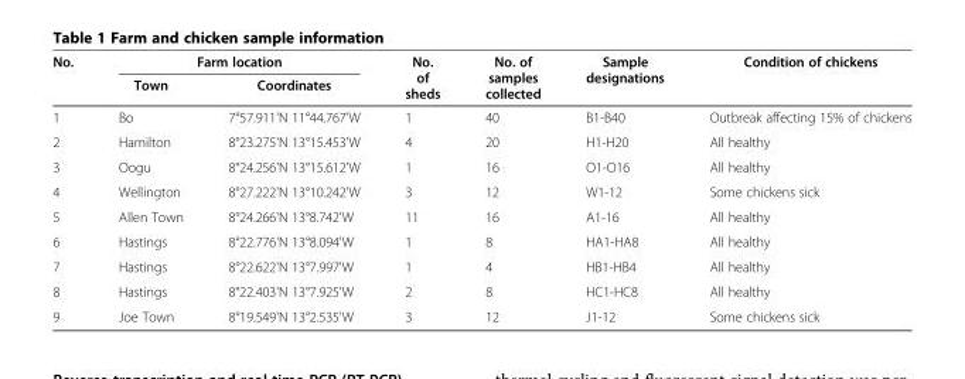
<table><thead><tr><td rowspan="2">No.</td><td colspan="2">Farm location</td><td rowspan="2">No. of sheds</td><td rowspan="2">No. of samples collected</td><td rowspan="2">Sample designations</td><td rowspan="2">Condition of chickens</td></tr><tr><td>Town</td><td>Coordinates</td></tr></thead><tbody><tr><td>1</td><td>Bo</td><td>7°57.911&#x27;N 11°44.767&#x27;W</td><td>1</td><td>40</td><td>B1-B40</td><td>Outbreak affecting 15% of chickens</td></tr><tr><td>2</td><td>Hamilton</td><td>8°23.275&#x27;N 13°15.453&#x27;W</td><td>4</td><td>20</td><td>H1-H20</td><td>All healthy</td></tr><tr><td>3</td><td>Oogu</td><td>8°24.256&#x27;N 13°15.612&#x27;W</td><td>1</td><td>16</td><td>O1-O16</td><td>All healthy</td></tr><tr><td>4</td><td>Wellington</td><td>8°27.222&#x27;N 13°10.242&#x27;W</td><td>3</td><td>12</td><td>W1-12</td><td>Some chickens sick</td></tr><tr><td>5</td><td>Allen Town</td><td>8°24.266&#x27;N 13°8.742&#x27;W</td><td>11</td><td>16</td><td>A1-16</td><td>All healthy</td></tr><tr><td>6</td><td>Hastings</td><td>8°22.776&#x27;N 13°8.094&#x27;W</td><td>1</td><td>8</td><td>HA1-HA8</td><td>All healthy</td></tr><tr><td>7</td><td>Hastings</td><td>8°22.622&#x27;N 13°7.997&#x27;W</td><td>1</td><td>4</td><td>HB1-HB4</td><td>All healthy</td></tr><tr><td>8</td><td>Hastings</td><td>8°22.403&#x27;N 13°7.925&#x27;W</td><td>2</td><td>8</td><td>HC1-HC8</td><td>All healthy</td></tr><tr><td>9</td><td>Joe Town</td><td>8°19.549&#x27;N 13°2.535&#x27;W</td><td>3</td><td>12</td><td>J1-12</td><td>Some chickens sick</td></tr></tbody></table>